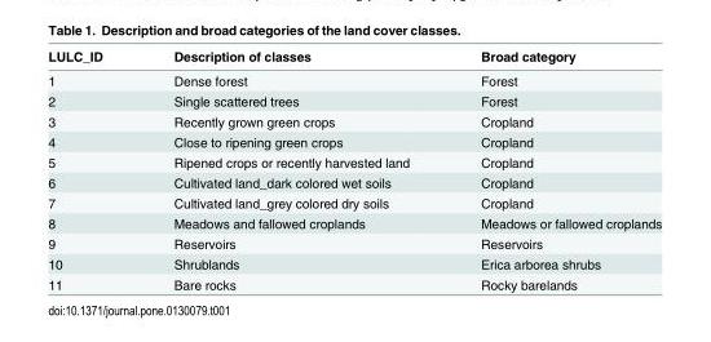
<table><thead><tr><td>LULC_ID</td><td>Description of classes</td><td>Broad category</td></tr></thead><tbody><tr><td>1</td><td>Dense forest</td><td>Forest</td></tr><tr><td>2</td><td>Single scattered trees</td><td>Forest</td></tr><tr><td>3</td><td>Recently grown green crops</td><td>Cropland</td></tr><tr><td>4</td><td>Close to ripening green crops</td><td>Cropland</td></tr><tr><td>5</td><td>Ripened crops or recently harvested land</td><td>Cropland</td></tr><tr><td>6</td><td>Cultivated land_dark colored wet soils</td><td>Cropland</td></tr><tr><td>7</td><td>Cultivated land_grey colored dry soils</td><td>Cropland</td></tr><tr><td>8</td><td>Meadows and fallowed croplands</td><td>Meadows or fallowed croplands</td></tr><tr><td>9</td><td>Reservoirs</td><td>Reservoirs</td></tr><tr><td>10</td><td>Shrublands</td><td>Erica arborea shrubs</td></tr><tr><td>11</td><td>Bare rocks</td><td>Rocky barelands</td></tr></tbody></table>